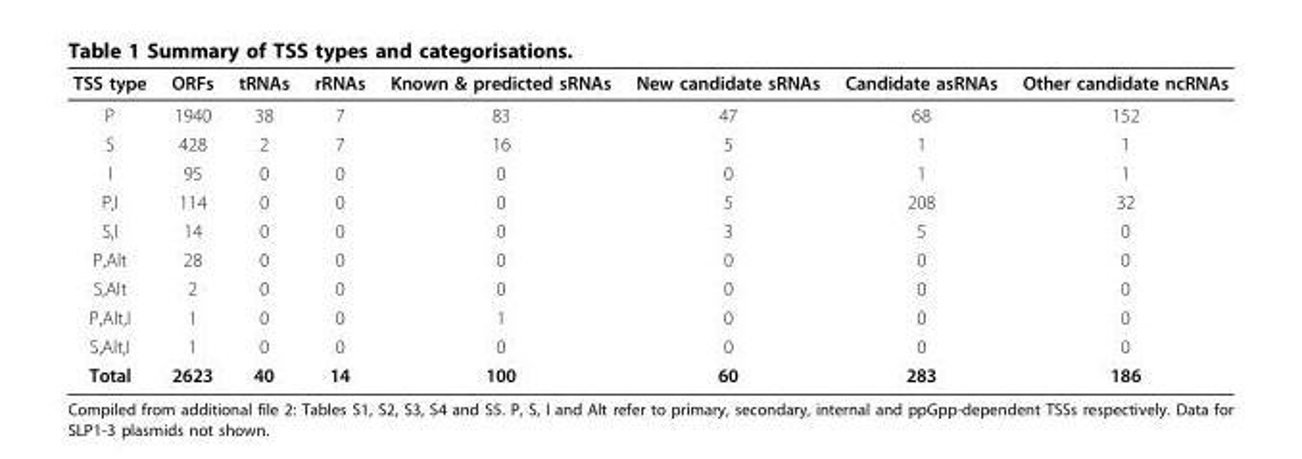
<table><thead><tr><td>TSS type</td><td>ORFs</td><td>tRNAs</td><td>rRNAs</td><td>Known &amp; predicted sRNAs</td><td>New candidate sRNAs</td><td>Candidate asRNAs</td><td>Other candidate ncRNAs</td></tr></thead><tbody><tr><td>P</td><td>1940</td><td>38</td><td>7</td><td>83</td><td>47</td><td>68</td><td>152</td></tr><tr><td>S</td><td>428</td><td>2</td><td>7</td><td>16</td><td>5</td><td>1</td><td>1</td></tr><tr><td>I</td><td>95</td><td>0</td><td>0</td><td>0</td><td>0</td><td>1</td><td>1</td></tr><tr><td>P,I</td><td>114</td><td>0</td><td>0</td><td>0</td><td>5</td><td>208</td><td>32</td></tr><tr><td>S,I</td><td>14</td><td>0</td><td>0</td><td>0</td><td>3</td><td>5</td><td>0</td></tr><tr><td>P,Alt</td><td>28</td><td>0</td><td>0</td><td>0</td><td>0</td><td>0</td><td>0</td></tr><tr><td>S,Alt</td><td>2</td><td>0</td><td>0</td><td>0</td><td>0</td><td>0</td><td>0</td></tr><tr><td>P,Alt,I</td><td>1</td><td>0</td><td>0</td><td>1</td><td>0</td><td>0</td><td>0</td></tr><tr><td>S,Alt,I</td><td>1</td><td>0</td><td>0</td><td>0</td><td>0</td><td>0</td><td>0</td></tr><tr><td>Total</td><td>2623</td><td>40</td><td>14</td><td>100</td><td>60</td><td>283</td><td>186</td></tr></tbody></table>